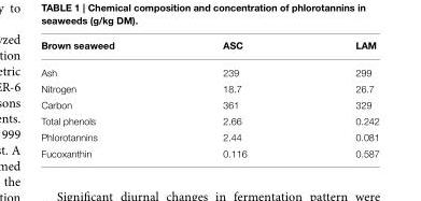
<table><thead><tr><td>Brown seaweed</td><td>ASC</td><td>LAM</td></tr></thead><tbody><tr><td>Ash</td><td>239</td><td>299</td></tr><tr><td>Nitrogen</td><td>18.7</td><td>26.7</td></tr><tr><td>Carbon</td><td>361</td><td>329</td></tr><tr><td>Total phenols</td><td>2.66</td><td>0.242</td></tr><tr><td>Phlorotannins</td><td>2.44</td><td>0.081</td></tr><tr><td>Fucoxanthin</td><td>0.116</td><td>0.587</td></tr></tbody></table>